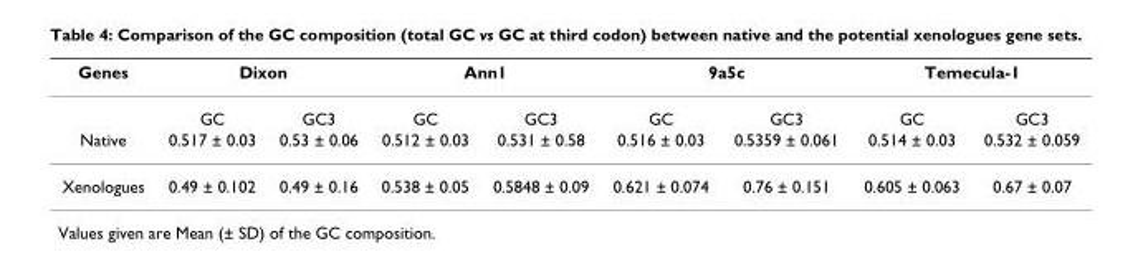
<table><thead><tr><td rowspan="2">Genes</td><td colspan="2">Dixon</td><td colspan="2">Ann1</td><td colspan="2">9a5c</td><td colspan="2">Temecula-1</td></tr><tr><td>GC</td><td>GC3</td><td>GC</td><td>GC3</td><td>GC</td><td>GC3</td><td>GC</td><td>GC3</td></tr></thead><tbody><tr><td>Native</td><td>0.517 ± 0.03</td><td>0.53 ± 0.06</td><td>0.512 ± 0.03</td><td>0.531 ± 0.58</td><td>0.516 ± 0.03</td><td>0.5359 ± 0.061</td><td>0.514 ± 0.03</td><td>0.532 ± 0.059</td></tr><tr><td>Xenologues</td><td>0.49 ± 0.102</td><td>0.49 ± 0.16</td><td>0.538 ± 0.05</td><td>0.5848 ± 0.09</td><td>0.621 ± 0.074</td><td>0.76 ± 0.151</td><td>0.605 ± 0.063</td><td>0.67 ± 0.07</td></tr></tbody></table>